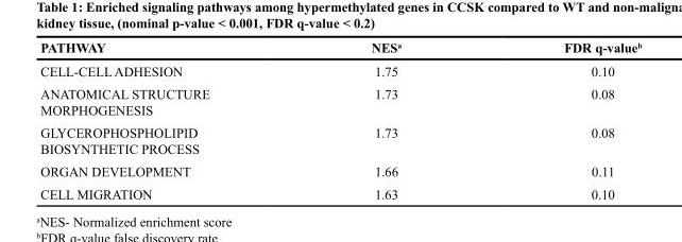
<table><thead><tr><td>PATHWAY</td><td>NES<sup>a</sup></td><td>FDR q-value<sup>b</sup></td></tr></thead><tbody><tr><td>CELL-CELL ADHESION</td><td>1.75</td><td>0.10</td></tr><tr><td>ANATOMICAL STRUCTURE MORPHOGENESIS</td><td>1.73</td><td>0.08</td></tr><tr><td>GLYCEROPHOSPHOLIPID BIOSYNTHETIC PROCESS</td><td>1.73</td><td>0.08</td></tr><tr><td>ORGAN DEVELOPMENT</td><td>1.66</td><td>0.11</td></tr><tr><td>CELL MIGRATION</td><td>1.63</td><td>0.10</td></tr></tbody></table>